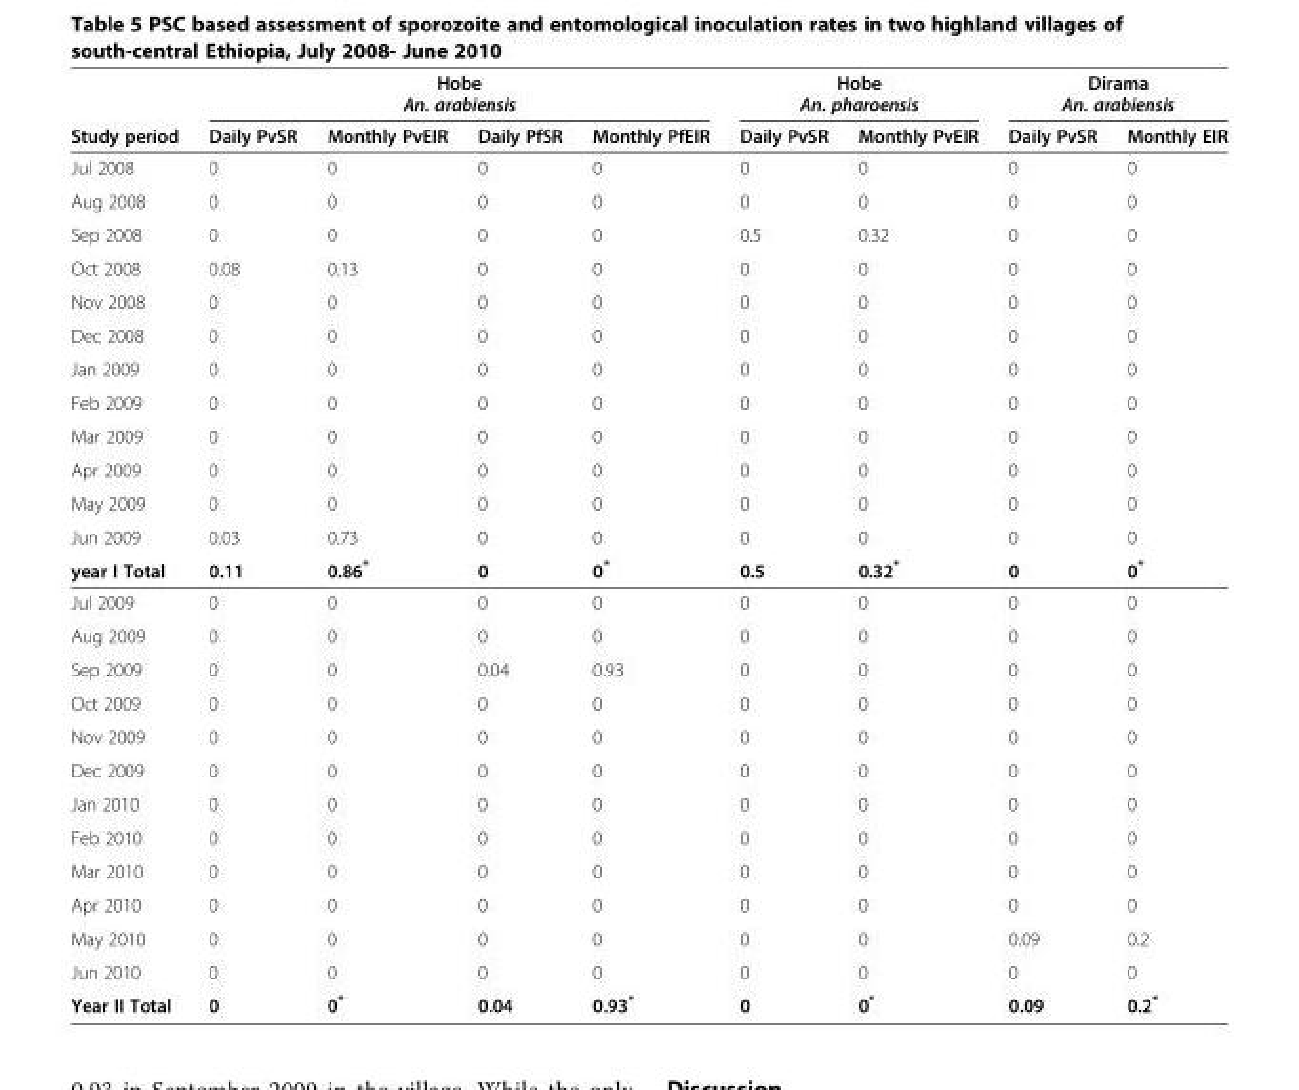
<table><thead><tr><td rowspan="3">Study period</td><td rowspan="2" colspan="4">Hobe An. arabiensis</td><td rowspan="2" colspan="2">Hobe An. pharoensis</td><td rowspan="2" colspan="2">Dirama An. arabiensis</td></tr><tr></tr><tr><td>Daily PvSR</td><td>Monthly PvEIR</td><td>Daily PfSR</td><td>Monthly PfEIR</td><td>Daily PvSR</td><td>Monthly PvEIR</td><td>Daily PvSR</td><td>Monthly EIR</td></tr></thead><tbody><tr><td>Jul 2008</td><td>0</td><td>0</td><td>0</td><td>0</td><td>0</td><td>0</td><td>0</td><td>0</td></tr><tr><td>Aug 2008</td><td>0</td><td>0</td><td>0</td><td>0</td><td>0</td><td>0</td><td>0</td><td>0</td></tr><tr><td>Sep 2008</td><td>0</td><td>0</td><td>0</td><td>0</td><td>0.5</td><td>0.32</td><td>0</td><td>0</td></tr><tr><td>Oct 2008</td><td>0.08</td><td>0.13</td><td>0</td><td>0</td><td>0</td><td>0</td><td>0</td><td>0</td></tr><tr><td>Nov 2008</td><td>0</td><td>0</td><td>0</td><td>0</td><td>0</td><td>0</td><td>0</td><td>0</td></tr><tr><td>Dec 2008</td><td>0</td><td>0</td><td>0</td><td>0</td><td>0</td><td>0</td><td>0</td><td>0</td></tr><tr><td>Jan 2009</td><td>0</td><td>0</td><td>0</td><td>0</td><td>0</td><td>0</td><td>0</td><td>0</td></tr><tr><td>Feb 2009</td><td>0</td><td>0</td><td>0</td><td>0</td><td>0</td><td>0</td><td>0</td><td>0</td></tr><tr><td>Mar 2009</td><td>0</td><td>0</td><td>0</td><td>0</td><td>0</td><td>0</td><td>0</td><td>0</td></tr><tr><td>Apr 2009</td><td>0</td><td>0</td><td>0</td><td>0</td><td>0</td><td>0</td><td>0</td><td>0</td></tr><tr><td>May 2009</td><td>0</td><td>0</td><td>0</td><td>0</td><td>0</td><td>0</td><td>0</td><td>0</td></tr><tr><td>Jun 2009</td><td>0.03</td><td>0.73</td><td>0</td><td>0</td><td>0</td><td>0</td><td>0</td><td>0</td></tr><tr><td>year I Total</td><td>0.11</td><td>0.86*</td><td>0</td><td>0*</td><td>0.5</td><td>0.32*</td><td>0</td><td>0*</td></tr><tr><td>Jul 2009</td><td>0</td><td>0</td><td>0</td><td>0</td><td>0</td><td>0</td><td>0</td><td>0</td></tr><tr><td>Aug 2009</td><td>0</td><td>0</td><td>0</td><td>0</td><td>0</td><td>0</td><td>0</td><td>0</td></tr><tr><td>Sep 2009</td><td>0</td><td>0</td><td>0.04</td><td>0.93</td><td>0</td><td>0</td><td>0</td><td>0</td></tr><tr><td>Oct 2009</td><td>0</td><td>0</td><td>0</td><td>0</td><td>0</td><td>0</td><td>0</td><td>0</td></tr><tr><td>Nov 2009</td><td>0</td><td>0</td><td>0</td><td>0</td><td>0</td><td>0</td><td>0</td><td>0</td></tr><tr><td>Dec 2009</td><td>0</td><td>0</td><td>0</td><td>0</td><td>0</td><td>0</td><td>0</td><td>0</td></tr><tr><td>Jan 2010</td><td>0</td><td>0</td><td>0</td><td>0</td><td>0</td><td>0</td><td>0</td><td>0</td></tr><tr><td>Feb 2010</td><td>0</td><td>0</td><td>0</td><td>0</td><td>0</td><td>0</td><td>0</td><td>0</td></tr><tr><td>Mar 2010</td><td>0</td><td>0</td><td>0</td><td>0</td><td>0</td><td>0</td><td>0</td><td>0</td></tr><tr><td>Apr 2010</td><td>0</td><td>0</td><td>0</td><td>0</td><td>0</td><td>0</td><td>0</td><td>0</td></tr><tr><td>May 2010</td><td>0</td><td>0</td><td>0</td><td>0</td><td>0</td><td>0</td><td>0.09</td><td>0.2</td></tr><tr><td>Jun 2010</td><td>0</td><td>0</td><td>0</td><td>0</td><td>0</td><td>0</td><td>0</td><td>0</td></tr><tr><td>Year II Total</td><td>0</td><td>0*</td><td>0.04</td><td>0.93*</td><td>0</td><td>0*</td><td>0.09</td><td>0.2*</td></tr></tbody></table>